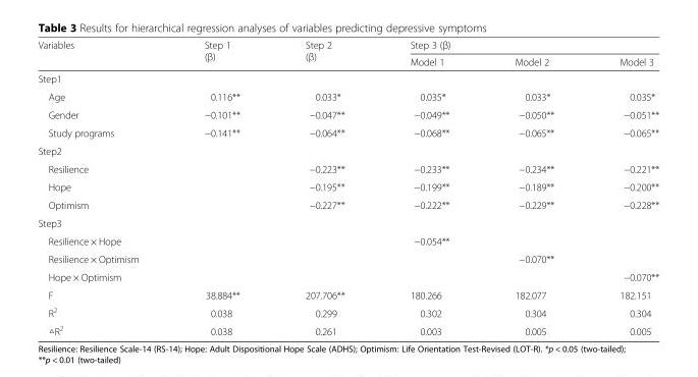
<table><thead><tr><td rowspan="2">Variables</td><td rowspan="2">Step 1 (β)</td><td rowspan="2">Step 2 (β)</td><td colspan="3">Step 3 (β)</td></tr><tr><td>Model 1</td><td>Model 2</td><td>Model 3</td></tr></thead><tbody><tr><td colspan="6">Step1</td></tr><tr><td>Age</td><td>0.116**</td><td>0.033*</td><td>0.035*</td><td>0.033*</td><td>0.035*</td></tr><tr><td>Gender</td><td>−0.101**</td><td>−0.047**</td><td>−0.049**</td><td>−0.050**</td><td>−0.051**</td></tr><tr><td>Study programs</td><td>−0.141**</td><td>−0.064**</td><td>−0.068**</td><td>−0.065**</td><td>−0.065**</td></tr><tr><td colspan="6">Step2</td></tr><tr><td>Resilience</td><td></td><td>−0.223**</td><td>−0.233**</td><td>−0.234**</td><td>−0.221**</td></tr><tr><td>Hope</td><td></td><td>−0.195**</td><td>−0.199**</td><td>−0.189**</td><td>−0.200**</td></tr><tr><td>Optimism</td><td></td><td>−0.227**</td><td>−0.222**</td><td>−0.229**</td><td>−0.228**</td></tr><tr><td colspan="6">Step3</td></tr><tr><td>Resilience × Hope</td><td></td><td></td><td>−0.054**</td><td></td><td></td></tr><tr><td>Resilience × Optimism</td><td></td><td></td><td></td><td>−0.070**</td><td></td></tr><tr><td>Hope × Optimism</td><td></td><td></td><td></td><td></td><td>−0.070**</td></tr><tr><td>F</td><td>38.884**</td><td>207.706**</td><td>180.266</td><td>182.077</td><td>182.151</td></tr><tr><td>R<sup>2</sup></td><td>0.038</td><td>0.299</td><td>0.302</td><td>0.304</td><td>0.304</td></tr><tr><td>△R<sup>2</sup></td><td>0.038</td><td>0.261</td><td>0.003</td><td>0.005</td><td>0.005</td></tr></tbody></table>